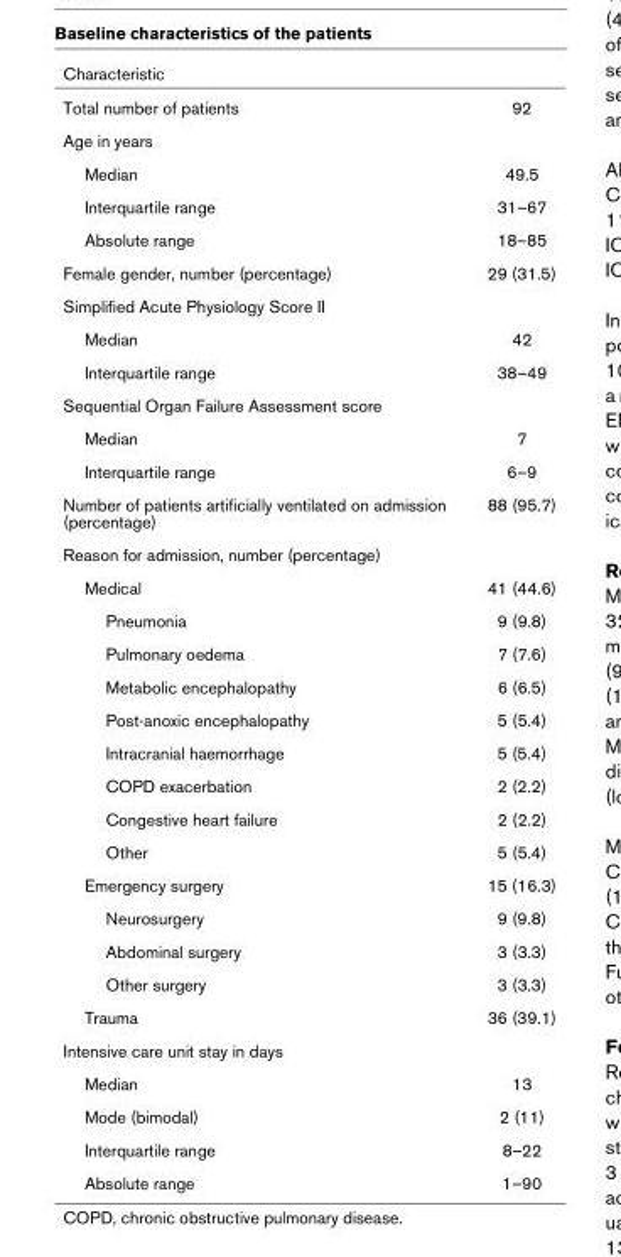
<table><thead><tr><td>Characteristic</td><td></td></tr></thead><tbody><tr><td>Total number of patients</td><td>92</td></tr><tr><td colspan="2">Age in years</td></tr><tr><td>Median</td><td>49.5</td></tr><tr><td>Interquartile range</td><td>31–67</td></tr><tr><td>Absolute range</td><td>18–85</td></tr><tr><td>Female gender, number (percentage)</td><td>29 (31.5)</td></tr><tr><td colspan="2">Simplified Acute Physiology Score II</td></tr><tr><td>Median</td><td>42</td></tr><tr><td>Interquartile range</td><td>38–49</td></tr><tr><td colspan="2">Sequential Organ Failure Assessment score</td></tr><tr><td>Median</td><td>7</td></tr><tr><td>Interquartile range</td><td>6–9</td></tr><tr><td>Number of patients artificially ventilated on admission (percentage)</td><td>88 (95.7)</td></tr><tr><td colspan="2">Reason for admission, number (percentage)</td></tr><tr><td>Medical</td><td>41 (44.6)</td></tr><tr><td>Pneumonia</td><td>9 (9.8)</td></tr><tr><td>Pulmonary oedema</td><td>7 (7.6)</td></tr><tr><td>Metabolic encephalopathy</td><td>6 (6.5)</td></tr><tr><td>Post-anoxic encephalopathy</td><td>5 (5.4)</td></tr><tr><td>Intracranial haemorrhage</td><td>5 (5.4)</td></tr><tr><td>COPD exacerbation</td><td>2 (2.2)</td></tr><tr><td>Congestive heart failure</td><td>2 (2.2)</td></tr><tr><td>Other</td><td>5 (5.4)</td></tr><tr><td>Emergency surgery</td><td>15 (16.3)</td></tr><tr><td>Neurosurgery</td><td>9 (9.8)</td></tr><tr><td>Abdominal surgery</td><td>3 (3.3)</td></tr><tr><td>Other surgery</td><td>3 (3.3)</td></tr><tr><td>Trauma</td><td>36 (39.1)</td></tr><tr><td colspan="2">Intensive care unit stay in days</td></tr><tr><td>Median</td><td>13</td></tr><tr><td>Mode (bimodal)</td><td>2 (11)</td></tr><tr><td>Interquartile range</td><td>8–22</td></tr><tr><td>Absolute range</td><td>1–90</td></tr></tbody></table>